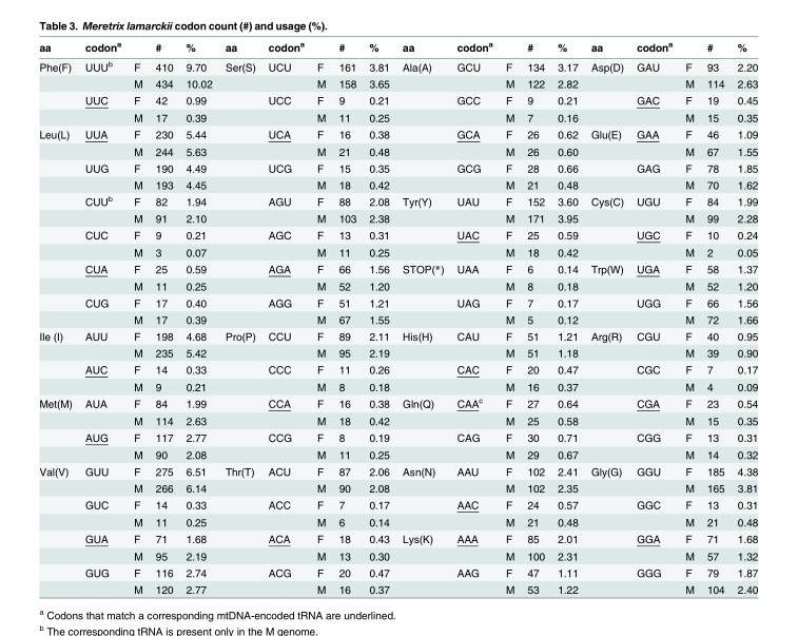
<table><thead><tr><td>aa</td><td>codon<sup>a</sup></td><td></td><td>#</td><td>%</td><td>aa</td><td>codon<sup>a</sup></td><td></td><td>#</td><td>%</td><td>aa</td><td>codon<sup>a</sup></td><td></td><td>#</td><td>%</td><td>aa</td><td>codon<sup>a</sup></td><td></td><td>#</td><td>%</td></tr></thead><tbody><tr><td rowspan="4">Phe(F)</td><td>UUU<sup>b</sup></td><td>F</td><td>410</td><td>9.70</td><td>Ser(S)</td><td>UCU</td><td>F</td><td>161</td><td>3.81</td><td>Ala(A)</td><td>GCU</td><td>F</td><td>134</td><td>3.17</td><td>Asp(D)</td><td>GAU</td><td>F</td><td>93</td><td>2.20</td></tr><tr><td></td><td>M</td><td>434</td><td>10.02</td><td></td><td></td><td>M</td><td>158</td><td>3.65</td><td></td><td></td><td>M</td><td>122</td><td>2.82</td><td></td><td></td><td>M</td><td>114</td><td>2.63</td></tr><tr><td>UUC</td><td>F</td><td>42</td><td>0.99</td><td></td><td>UCC</td><td>F</td><td>9</td><td>0.21</td><td></td><td>GCC</td><td>F</td><td>9</td><td>0.21</td><td></td><td>GAC</td><td>F</td><td>19</td><td>0.45</td></tr><tr><td></td><td>M</td><td>17</td><td>0.39</td><td></td><td></td><td>M</td><td>11</td><td>0.25</td><td></td><td></td><td>M</td><td>7</td><td>0.16</td><td></td><td></td><td>M</td><td>15</td><td>0.35</td></tr><tr><td rowspan="12">Leu(L)</td><td>UUA</td><td>F</td><td>230</td><td>5.44</td><td></td><td>UCA</td><td>F</td><td>16</td><td>0.38</td><td></td><td>GCA</td><td>F</td><td>26</td><td>0.62</td><td>Glu(E)</td><td>GAA</td><td>F</td><td>46</td><td>1.09</td></tr><tr><td></td><td>M</td><td>244</td><td>5.63</td><td></td><td></td><td>M</td><td>21</td><td>0.48</td><td></td><td></td><td>M</td><td>26</td><td>0.60</td><td></td><td></td><td>M</td><td>67</td><td>1.55</td></tr><tr><td>UUG</td><td>F</td><td>190</td><td>4.49</td><td></td><td>UCG</td><td>F</td><td>15</td><td>0.35</td><td></td><td>GCG</td><td>F</td><td>28</td><td>0.66</td><td></td><td>GAG</td><td>F</td><td>78</td><td>1.85</td></tr><tr><td></td><td>M</td><td>193</td><td>4.45</td><td></td><td></td><td>M</td><td>18</td><td>0.42</td><td></td><td></td><td>M</td><td>21</td><td>0.48</td><td></td><td></td><td>M</td><td>70</td><td>1.62</td></tr><tr><td>CUU<sup>b</sup></td><td>F</td><td>82</td><td>1.94</td><td></td><td>AGU</td><td>F</td><td>88</td><td>2.08</td><td>Tyr(Y)</td><td>UAU</td><td>F</td><td>152</td><td>3.60</td><td>Cys(C)</td><td>UGU</td><td>F</td><td>84</td><td>1.99</td></tr><tr><td></td><td>M</td><td>91</td><td>2.10</td><td></td><td></td><td>M</td><td>103</td><td>2.38</td><td></td><td></td><td>M</td><td>171</td><td>3.95</td><td></td><td></td><td>M</td><td>99</td><td>2.28</td></tr><tr><td>CUC</td><td>F</td><td>9</td><td>0.21</td><td></td><td>AGC</td><td>F</td><td>13</td><td>0.31</td><td></td><td>UAC</td><td>F</td><td>25</td><td>0.59</td><td></td><td>UGC</td><td>F</td><td>10</td><td>0.24</td></tr><tr><td></td><td>M</td><td>3</td><td>0.07</td><td></td><td></td><td>M</td><td>11</td><td>0.25</td><td></td><td></td><td>M</td><td>18</td><td>0.42</td><td></td><td></td><td>M</td><td>2</td><td>0.05</td></tr><tr><td>CUA</td><td>F</td><td>25</td><td>0.59</td><td></td><td>AGA</td><td>F</td><td>66</td><td>1.56</td><td>STOP(*)</td><td>UAA</td><td>F</td><td>6</td><td>0.14</td><td>Trp(W)</td><td>UGA</td><td>F</td><td>58</td><td>1.37</td></tr><tr><td></td><td>M</td><td>11</td><td>0.25</td><td></td><td></td><td>M</td><td>52</td><td>1.20</td><td></td><td></td><td>M</td><td>8</td><td>0.18</td><td></td><td></td><td>M</td><td>52</td><td>1.20</td></tr><tr><td>CUG</td><td>F</td><td>17</td><td>0.40</td><td></td><td>AGG</td><td>F</td><td>51</td><td>1.21</td><td></td><td>UAG</td><td>F</td><td>7</td><td>0.17</td><td></td><td>UGG</td><td>F</td><td>66</td><td>1.56</td></tr><tr><td></td><td>M</td><td>17</td><td>0.39</td><td></td><td></td><td>M</td><td>67</td><td>1.55</td><td></td><td></td><td>M</td><td>5</td><td>0.12</td><td></td><td></td><td>M</td><td>72</td><td>1.66</td></tr><tr><td rowspan="4">Ile (I)</td><td>AUU</td><td>F</td><td>198</td><td>4.68</td><td>Pro(P)</td><td>CCU</td><td>F</td><td>89</td><td>2.11</td><td>His(H)</td><td>CAU</td><td>F</td><td>51</td><td>1.21</td><td>Arg(R)</td><td>CGU</td><td>F</td><td>40</td><td>0.95</td></tr><tr><td></td><td>M</td><td>235</td><td>5.42</td><td></td><td></td><td>M</td><td>95</td><td>2.19</td><td></td><td></td><td>M</td><td>51</td><td>1.18</td><td></td><td></td><td>M</td><td>39</td><td>0.90</td></tr><tr><td>AUC</td><td>F</td><td>14</td><td>0.33</td><td></td><td>CCC</td><td>F</td><td>11</td><td>0.26</td><td></td><td>CAC</td><td>F</td><td>20</td><td>0.47</td><td></td><td>CGC</td><td>F</td><td>7</td><td>0.17</td></tr><tr><td></td><td>M</td><td>9</td><td>0.21</td><td></td><td></td><td>M</td><td>8</td><td>0.18</td><td></td><td></td><td>M</td><td>16</td><td>0.37</td><td></td><td></td><td>M</td><td>4</td><td>0.09</td></tr><tr><td rowspan="4">Met(M)</td><td>AUA</td><td>F</td><td>84</td><td>1.99</td><td></td><td>CCA</td><td>F</td><td>16</td><td>0.38</td><td>Gln(Q)</td><td>CAA<sup>c</sup></td><td>F</td><td>27</td><td>0.64</td><td></td><td>CGA</td><td>F</td><td>23</td><td>0.54</td></tr><tr><td></td><td>M</td><td>114</td><td>2.63</td><td></td><td></td><td>M</td><td>18</td><td>0.42</td><td></td><td></td><td>M</td><td>25</td><td>0.58</td><td></td><td></td><td>M</td><td>15</td><td>0.35</td></tr><tr><td>AUG</td><td>F</td><td>117</td><td>2.77</td><td></td><td>CCG</td><td>F</td><td>8</td><td>0.19</td><td></td><td>CAG</td><td>F</td><td>30</td><td>0.71</td><td></td><td>CGG</td><td>F</td><td>13</td><td>0.31</td></tr><tr><td></td><td>M</td><td>90</td><td>2.08</td><td></td><td></td><td>M</td><td>11</td><td>0.25</td><td></td><td></td><td>M</td><td>29</td><td>0.67</td><td></td><td></td><td>M</td><td>14</td><td>0.32</td></tr><tr><td rowspan="8">Val(V)</td><td>GUU</td><td>F</td><td>275</td><td>6.51</td><td>Thr(T)</td><td>ACU</td><td>F</td><td>87</td><td>2.06</td><td>Asn(N)</td><td>AAU</td><td>F</td><td>102</td><td>2.41</td><td>Gly(G)</td><td>GGU</td><td>F</td><td>185</td><td>4.38</td></tr><tr><td></td><td>M</td><td>266</td><td>6.14</td><td></td><td></td><td>M</td><td>90</td><td>2.08</td><td></td><td></td><td>M</td><td>102</td><td>2.35</td><td></td><td></td><td>M</td><td>165</td><td>3.81</td></tr><tr><td>GUC</td><td>F</td><td>14</td><td>0.33</td><td></td><td>ACC</td><td>F</td><td>7</td><td>0.17</td><td></td><td>AAC</td><td>F</td><td>24</td><td>0.57</td><td></td><td>GGC</td><td>F</td><td>13</td><td>0.31</td></tr><tr><td></td><td>M</td><td>11</td><td>0.25</td><td></td><td></td><td>M</td><td>6</td><td>0.14</td><td></td><td></td><td>M</td><td>21</td><td>0.48</td><td></td><td></td><td>M</td><td>21</td><td>0.48</td></tr><tr><td>GUA</td><td>F</td><td>71</td><td>1.68</td><td></td><td>ACA</td><td>F</td><td>18</td><td>0.43</td><td>Lys(K)</td><td>AAA</td><td>F</td><td>85</td><td>2.01</td><td></td><td>GGA</td><td>F</td><td>71</td><td>1.68</td></tr><tr><td></td><td>M</td><td>95</td><td>2.19</td><td></td><td></td><td>M</td><td>13</td><td>0.30</td><td></td><td></td><td>M</td><td>100</td><td>2.31</td><td></td><td></td><td>M</td><td>57</td><td>1.32</td></tr><tr><td>GUG</td><td>F</td><td>116</td><td>2.74</td><td></td><td>ACG</td><td>F</td><td>20</td><td>0.47</td><td></td><td>AAG</td><td>F</td><td>47</td><td>1.11</td><td></td><td>GGG</td><td>F</td><td>79</td><td>1.87</td></tr><tr><td></td><td>M</td><td>120</td><td>2.77</td><td></td><td></td><td>M</td><td>16</td><td>0.37</td><td></td><td></td><td>M</td><td>53</td><td>1.22</td><td></td><td></td><td>M</td><td>104</td><td>2.40</td></tr></tbody></table>